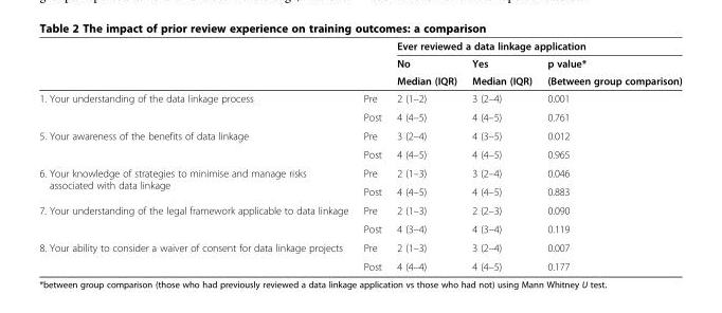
<table><thead><tr><td rowspan="3"></td><td rowspan="3"></td><td colspan="3">Ever reviewed a data linkage application</td></tr><tr><td rowspan="2">No Median (IQR)</td><td rowspan="2">Yes Median (IQR)</td><td rowspan="2">p value* (Between group comparison)</td></tr><tr></tr></thead><tbody><tr><td rowspan="2">1. Your understanding of the data linkage process</td><td>Pre</td><td>2 (1–2)</td><td>3 (2–4)</td><td>0.001</td></tr><tr><td>Post</td><td>4 (4–5)</td><td>4 (4–5)</td><td>0.761</td></tr><tr><td rowspan="2">5. Your awareness of the benefits of data linkage</td><td>Pre</td><td>3 (2–4)</td><td>4 (3–5)</td><td>0.012</td></tr><tr><td>Post</td><td>4 (4–5)</td><td>4 (4–5)</td><td>0.965</td></tr><tr><td rowspan="2">6. Your knowledge of strategies to minimise and manage risks associated with data linkage</td><td>Pre</td><td>2 (1–3)</td><td>3 (2–4)</td><td>0.046</td></tr><tr><td>Post</td><td>4 (4–5)</td><td>4 (4–5)</td><td>0.883</td></tr><tr><td rowspan="2">7. Your understanding of the legal framework applicable to data linkage</td><td>Pre</td><td>2 (1–3)</td><td>2 (2–3)</td><td>0.090</td></tr><tr><td>Post</td><td>4 (3–4)</td><td>4 (3–4)</td><td>0.119</td></tr><tr><td rowspan="2">8. Your ability to consider a waiver of consent for data linkage projects</td><td>Pre</td><td>2 (1–3)</td><td>3 (2–4)</td><td>0.007</td></tr><tr><td>Post</td><td>4 (4–4)</td><td>4 (4–5)</td><td>0.177</td></tr></tbody></table>